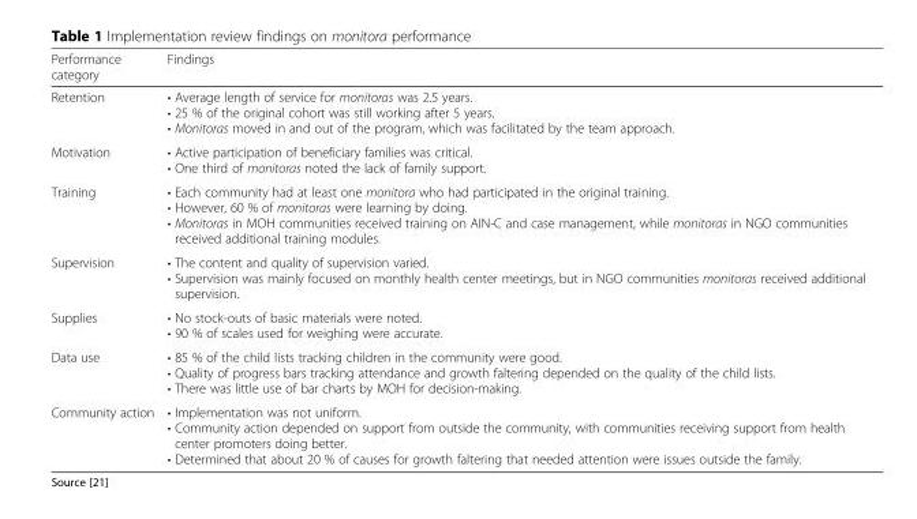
<table><thead><tr><td>Performance category</td><td>Findings</td></tr></thead><tbody><tr><td>Retention</td><td>• Average length of service for monitoras was 2.5 years. • 25 % of the original cohort was still working after 5 years. • Monitoras moved in and out of the program, which was facilitated by the team approach.</td></tr><tr><td>Motivation</td><td>• Active participation of beneficiary families was critical. • One third of monitoras noted the lack of family support.</td></tr><tr><td>Training</td><td>• Each community had at least one monitora who had participated in the original training. • However, 60 % of monitoras were learning by doing. • Monitoras in MOH communities received training on AIN-C and case management, while monitoras in NGO communities received additional training modules.</td></tr><tr><td>Supervision</td><td>• The content and quality of supervision varied. • Supervision was mainly focused on monthly health center meetings, but in NGO communities monitoras received additional supervision.</td></tr><tr><td>Supplies</td><td>• No stock-outs of basic materials were noted. • 90 % of scales used for weighing were accurate.</td></tr><tr><td>Data use</td><td>• 85 % of the child lists tracking children in the community were good. • Quality of progress bars tracking attendance and growth faltering depended on the quality of the child lists. • There was little use of bar charts by MOH for decision-making.</td></tr><tr><td>Community action</td><td>• Implementation was not uniform. • Community action depended on support from outside the community, with communities receiving support from health center promoters doing better. • Determined that about 20 % of causes for growth faltering that needed attention were issues outside the family.</td></tr></tbody></table>